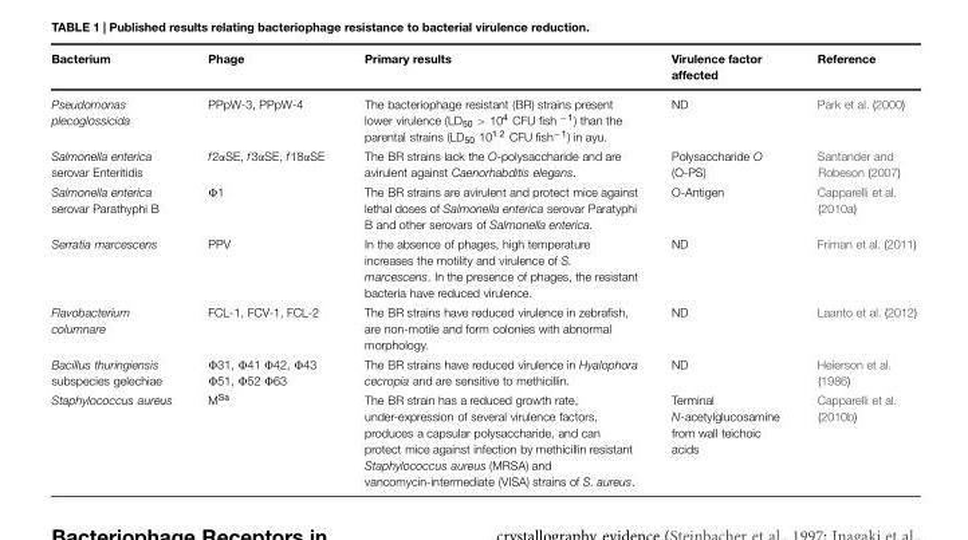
<table><thead><tr><td>Bacterium</td><td>Phage</td><td>Primary results</td><td>Virulence factor affected</td><td>Reference</td></tr></thead><tbody><tr><td>Pseudomonas plecoglossicida</td><td>PPpW-3, PPpW-4</td><td>The bacteriophage resistant (BR) strains present lower virulence (LD<sub>50</sub> &gt; 10<sup>4</sup> CFU fish <sup>−1</sup>) than the parental strains (LD<sub>50</sub> 10<sup>1.2</sup> CFU fish<sup>−1</sup>) in ayu.</td><td>ND</td><td>Park et al. (2000)</td></tr><tr><td>Salmonella enterica serovar Enteritidis</td><td>f2αSE, f3αSE, f18αSE</td><td>The BR strains lack the O-polysaccharide and are avirulent against Caenorhabditis elegans.</td><td>Polysaccharide O (O-PS)</td><td>Santander and Robeson (2007)</td></tr><tr><td>Salmonella enterica serovar Parathyphi B</td><td>Φ1</td><td>The BR strains are avirulent and protect mice against lethal doses of Salmonella enterica serovar Paratyphi B and other serovars of Salmonella enterica.</td><td>O-Antigen</td><td>Capparelli et al. (2010a)</td></tr><tr><td>Serratia marcescens</td><td>PPV</td><td>In the absence of phages, high temperature increases the motility and virulence of S. marcescens. In the presence of phages, the resistant bacteria have reduced virulence.</td><td>ND</td><td>Friman et al. (2011)</td></tr><tr><td>Flavobacterium columnare</td><td>FCL-1, FCV-1, FCL-2</td><td>The BR strains have reduced virulence in zebrafish, are non-motile and form colonies with abnormal morphology.</td><td>ND</td><td>Laanto et al. (2012)</td></tr><tr><td>Bacillus thuringiensis subspecies gelechiae</td><td>Φ31, Φ41 Φ42, Φ43 Φ51, Φ52 Φ63</td><td>The BR strains have reduced virulence in Hyalophora cecropia and are sensitive to methicillin.</td><td>ND</td><td>Heierson et al. (1986)</td></tr><tr><td>Staphylococcus aureus</td><td>M<sup>Sa</sup></td><td>The BR strain has a reduced growth rate, under-expression of several virulence factors, produces a capsular polysaccharide, and can protect mice against infection by methicillin resistant Staphylococcus aureus (MRSA) and vancomycin-intermediate (VISA) strains of S. aureus.</td><td>Terminal N-acetylglucosamine from wall teichoic acids</td><td>Capparelli et al. (2010b)</td></tr></tbody></table>